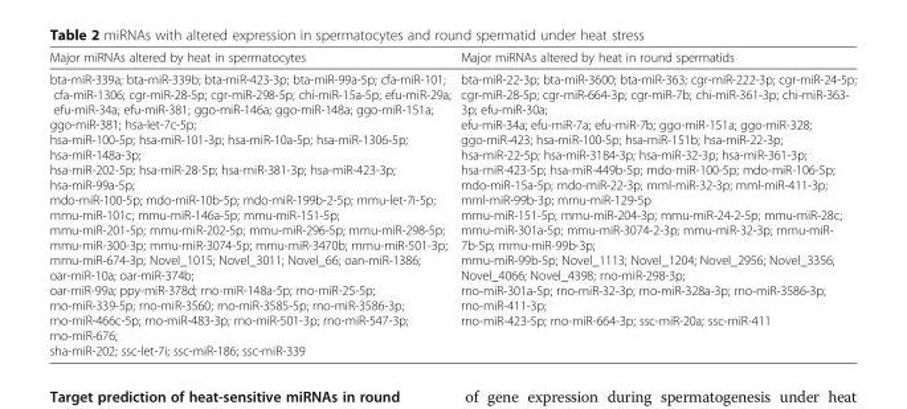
<table><thead><tr><td>Major miRNAs altered by heat in spermatocytes</td><td>Major miRNAs altered by heat in round spermatids</td></tr></thead><tbody><tr><td>bta-miR-339a; bta-miR-339b; bta-miR-423-3p; bta-miR-99a-5p; cfa-miR-101; cfa-miR-1306; cgr-miR-28-5p; cgr-miR-298-5p; chi-miR-15a-5p; efu-miR-29a; efu-miR-34a; efu-miR-381; ggo-miR-146a; ggo-miR-148a; ggo-miR-151a; ggo-miR-381; hsa-let-7c-5p; hsa-miR-100-5p; hsa-miR-101-3p; hsa-miR-10a-5p; hsa-miR-1306-5p; hsa-miR-148a-3p; hsa-miR-202-5p; hsa-miR-28-5p; hsa-miR-381-3p; hsa-miR-423-3p; hsa-miR-99a-5p; mdo-miR-100-5p; mdo-miR-10b-5p; mdo-miR-199b-2-5p; mmu-let-7i-5p; mmu-miR-101c; mmu-miR-146a-5p; mmu-miR-151-5p; mmu-miR-201-5p; mmu-miR-202-5p; mmu-miR-296-5p; mmu-miR-298-5p; mmu-miR-300-3p; mmu-miR-3074-5p; mmu-miR-3470b; mmu-miR-501-3p; mmu-miR-674-3p; Novel_1015; Novel_3011; Novel_66; oan-miR-1386; oar-miR-10a; oar-miR-374b; oar-miR-99a; ppy-miR-378d; rno-miR-148a-5p; rno-miR-25-5p; rno-miR-339-5p; rno-miR-3560; rno-miR-3585-5p; rno-miR-3586-3p; rno-miR-466c-5p; rno-miR-483-3p; rno-miR-501-3p; rno-miR-547-3p; rno-miR-676; sha-miR-202; ssc-let-7i; ssc-miR-186; ssc-miR-339</td><td>bta-miR-22-3p; bta-miR-3600; bta-miR-363; cgr-miR-222-3p; cgr-miR-24-5p; cgr-miR-28-5p; cgr-miR-664-3p; cgr-miR-7b; chi-miR-361-3p; chi-miR-363- 3p; efu-miR-30a; efu-miR-34a; efu-miR-7a; efu-miR-7b; ggo-miR-151a; ggo-miR-328; ggo-miR-423; hsa-miR-100-5p; hsa-miR-151b; hsa-miR-22-3p; hsa-miR-22-5p; hsa-miR-3184-3p; hsa-miR-32-3p; hsa-miR-361-3p; hsa-miR-423-5p; hsa-miR-449b-5p; mdo-miR-100-5p; mdo-miR-106-5p; mdo-miR-15a-5p; mdo-miR-22-3p; mml-miR-32-3p; mml-miR-411-3p; mml-miR-99b-3p; mmu-miR-129-5p mmu-miR-151-5p; mmu-miR-204-3p; mmu-miR-24-2-5p; mmu-miR-28c; mmu-miR-301a-5p; mmu-miR-3074-2-3p; mmu-miR-32-3p; mmu-miR- 7b-5p; mmu-miR-99b-3p; mmu-miR-99b-5p; Novel_1113; Novel_1204; Novel_2956; Novel_3356; Novel_4066; Novel_4398; rno-miR-298-3p; rno-miR-301a-5p; rno-miR-32-3p; rno-miR-328a-3p; rno-miR-3586-3p; rno-miR-411-3p; rno-miR-423-5p; rno-miR-664-3p; ssc-miR-20a; ssc-miR-411</td></tr></tbody></table>